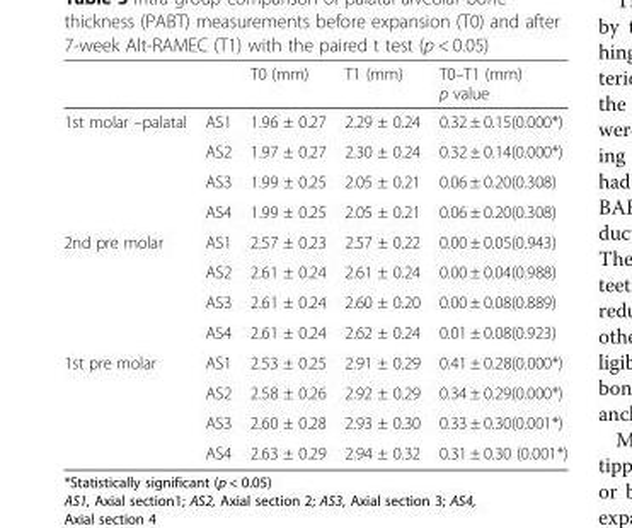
<table><thead><tr><td></td><td></td><td>T0 (mm)</td><td>T1 (mm)</td><td>T0–T1 (mm) p value</td></tr></thead><tbody><tr><td rowspan="4">1st molar –palatal</td><td>AS1</td><td>1.96 ± 0.27</td><td>2.29 ± 0.24</td><td>0.32 ± 0.15(0.000*)</td></tr><tr><td>AS2</td><td>1.97 ± 0.27</td><td>2.30 ± 0.24</td><td>0.32 ± 0.14(0.000*)</td></tr><tr><td>AS3</td><td>1.99 ± 0.25</td><td>2.05 ± 0.21</td><td>0.06 ± 0.20(0.308)</td></tr><tr><td>AS4</td><td>1.99 ± 0.25</td><td>2.05 ± 0.21</td><td>0.06 ± 0.20(0.308)</td></tr><tr><td rowspan="4">2nd pre molar</td><td>AS1</td><td>2.57 ± 0.23</td><td>2.57 ± 0.22</td><td>0.00 ± 0.05(0.943)</td></tr><tr><td>AS2</td><td>2.61 ± 0.24</td><td>2.61 ± 0.24</td><td>0.00 ± 0.04(0.988)</td></tr><tr><td>AS3</td><td>2.61 ± 0.24</td><td>2.60 ± 0.20</td><td>0.00 ± 0.08(0.889)</td></tr><tr><td>AS4</td><td>2.61 ± 0.24</td><td>2.62 ± 0.24</td><td>0.01 ± 0.08(0.923)</td></tr><tr><td rowspan="4">1st pre molar</td><td>AS1</td><td>2.53 ± 0.25</td><td>2.91 ± 0.29</td><td>0.41 ± 0.28(0.000*)</td></tr><tr><td>AS2</td><td>2.58 ± 0.26</td><td>2.92 ± 0.29</td><td>0.34 ± 0.29(0.000*)</td></tr><tr><td>AS3</td><td>2.60 ± 0.28</td><td>2.93 ± 0.30</td><td>0.33 ± 0.30(0.001*)</td></tr><tr><td>AS4</td><td>2.63 ± 0.29</td><td>2.94 ± 0.32</td><td>0.31 ± 0.30 (0.001*)</td></tr></tbody></table>